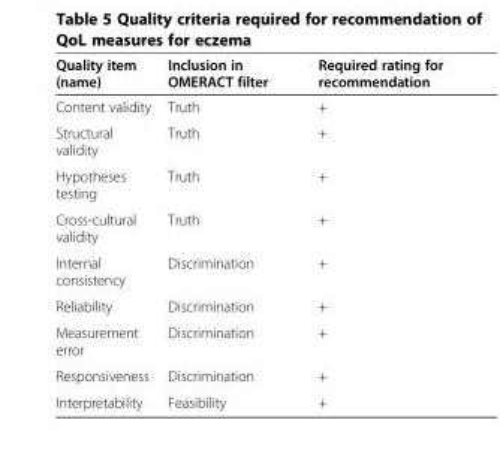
<table><thead><tr><td>Quality item (name)</td><td>Inclusion in OMERACT filter</td><td>Required rating for recommendation</td></tr></thead><tbody><tr><td>Content validity</td><td>Truth</td><td>+</td></tr><tr><td>Structural validity</td><td>Truth</td><td>+</td></tr><tr><td>Hypotheses testing</td><td>Truth</td><td>+</td></tr><tr><td>Cross-cultural validity</td><td>Truth</td><td>+</td></tr><tr><td>Internal consistency</td><td>Discrimination</td><td>+</td></tr><tr><td>Reliability</td><td>Discrimination</td><td>+</td></tr><tr><td>Measurement error</td><td>Discrimination</td><td>+</td></tr><tr><td>Responsiveness</td><td>Discrimination</td><td>+</td></tr><tr><td>Interpretability</td><td>Feasibility</td><td>+</td></tr></tbody></table>